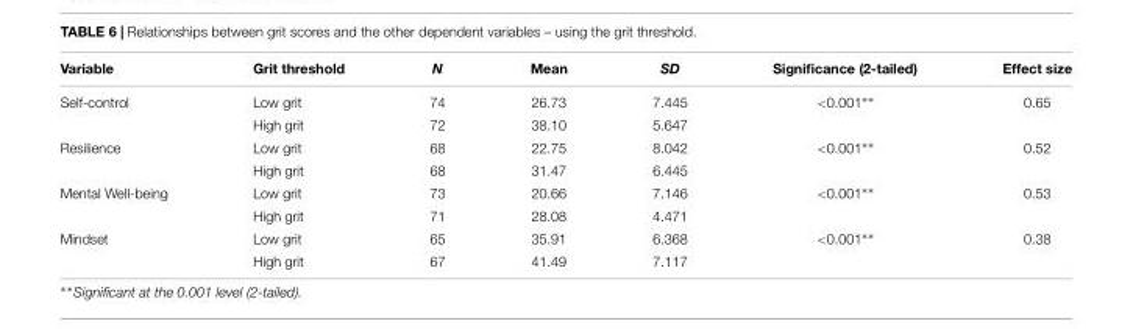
<table><thead><tr><td>Variable</td><td>Grit threshold</td><td>N</td><td>Mean</td><td>SD</td><td>Significance (2-tailed)</td><td>Effect size</td></tr></thead><tbody><tr><td rowspan="2">Self-control</td><td>Low grit</td><td>74</td><td>26.73</td><td>7.445</td><td>&lt;0.001∗∗</td><td>0.65</td></tr><tr><td>High grit</td><td>72</td><td>38.10</td><td>5.647</td><td></td><td></td></tr><tr><td rowspan="2">Resilience</td><td>Low grit</td><td>68</td><td>22.75</td><td>8.042</td><td>&lt;0.001∗∗</td><td>0.52</td></tr><tr><td>High grit</td><td>68</td><td>31.47</td><td>6.445</td><td></td><td></td></tr><tr><td rowspan="2">Mental Well-being</td><td>Low grit</td><td>73</td><td>20.66</td><td>7.146</td><td>&lt;0.001∗∗</td><td>0.53</td></tr><tr><td>High grit</td><td>71</td><td>28.08</td><td>4.471</td><td></td><td></td></tr><tr><td rowspan="2">Mindset</td><td>Low grit</td><td>65</td><td>35.91</td><td>6.368</td><td>&lt;0.001∗∗</td><td>0.38</td></tr><tr><td>High grit</td><td>67</td><td>41.49</td><td>7.117</td><td></td><td></td></tr></tbody></table>